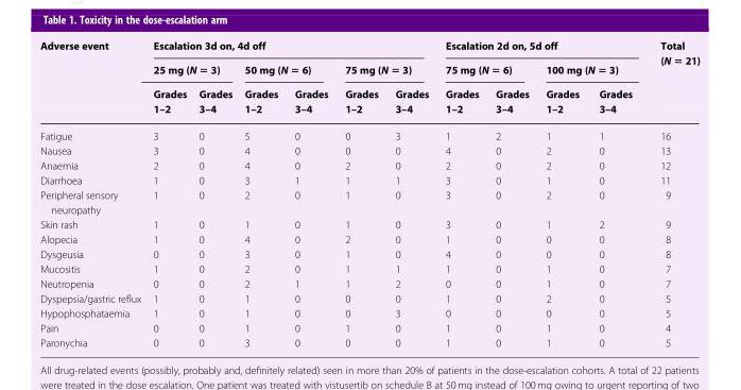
<table><thead><tr><td rowspan="3">Adverse event</td><td colspan="6">Escalation 3d on, 4d off</td><td colspan="4">Escalation 2d on, 5d off</td><td rowspan="3">Total (N = 21)</td></tr><tr><td colspan="2">25 mg (N = 3)</td><td colspan="2">50 mg (N = 6)</td><td colspan="2">75 mg (N = 3)</td><td colspan="2">75 mg (N = 6)</td><td colspan="2">100 mg (N = 3)</td></tr><tr><td>Grades 1–2</td><td>Grades 3–4</td><td>Grades 1–2</td><td>Grades 3–4</td><td>Grades 1–2</td><td>Grades 3–4</td><td>Grades 1–2</td><td>Grades 3–4</td><td>Grades 1–2</td><td>Grades 3–4</td></tr></thead><tbody><tr><td>Fatigue</td><td>3</td><td>0</td><td>5</td><td>0</td><td>0</td><td>3</td><td>1</td><td>2</td><td>1</td><td>1</td><td>16</td></tr><tr><td>Nausea</td><td>3</td><td>0</td><td>4</td><td>0</td><td>0</td><td>0</td><td>4</td><td>0</td><td>2</td><td>0</td><td>13</td></tr><tr><td>Anaemia</td><td>2</td><td>0</td><td>4</td><td>0</td><td>2</td><td>0</td><td>2</td><td>0</td><td>2</td><td>0</td><td>12</td></tr><tr><td>Diarrhoea</td><td>1</td><td>0</td><td>3</td><td>1</td><td>1</td><td>1</td><td>3</td><td>0</td><td>1</td><td>0</td><td>11</td></tr><tr><td>Peripheral sensory neuropathy</td><td>1</td><td>0</td><td>2</td><td>0</td><td>1</td><td>0</td><td>3</td><td>0</td><td>2</td><td>0</td><td>9</td></tr><tr><td>Skin rash</td><td>1</td><td>0</td><td>1</td><td>0</td><td>1</td><td>0</td><td>3</td><td>0</td><td>1</td><td>2</td><td>9</td></tr><tr><td>Alopecia</td><td>1</td><td>0</td><td>4</td><td>0</td><td>2</td><td>0</td><td>1</td><td>0</td><td>0</td><td>0</td><td>8</td></tr><tr><td>Dysgeusia</td><td>0</td><td>0</td><td>3</td><td>0</td><td>1</td><td>0</td><td>4</td><td>0</td><td>0</td><td>0</td><td>8</td></tr><tr><td>Mucositis</td><td>1</td><td>0</td><td>2</td><td>0</td><td>1</td><td>1</td><td>1</td><td>0</td><td>1</td><td>0</td><td>7</td></tr><tr><td>Neutropenia</td><td>0</td><td>0</td><td>2</td><td>1</td><td>1</td><td>2</td><td>0</td><td>0</td><td>1</td><td>0</td><td>7</td></tr><tr><td>Dyspepsia/gastric reflux</td><td>1</td><td>0</td><td>1</td><td>0</td><td>0</td><td>0</td><td>1</td><td>0</td><td>2</td><td>0</td><td>5</td></tr><tr><td>Hypophosphataemia</td><td>1</td><td>0</td><td>1</td><td>0</td><td>0</td><td>3</td><td>0</td><td>0</td><td>0</td><td>0</td><td>5</td></tr><tr><td>Pain</td><td>0</td><td>0</td><td>1</td><td>0</td><td>1</td><td>0</td><td>1</td><td>0</td><td>1</td><td>0</td><td>4</td></tr><tr><td>Paronychia</td><td>0</td><td>0</td><td>3</td><td>0</td><td>0</td><td>0</td><td>1</td><td>0</td><td>1</td><td>0</td><td>5</td></tr></tbody></table>